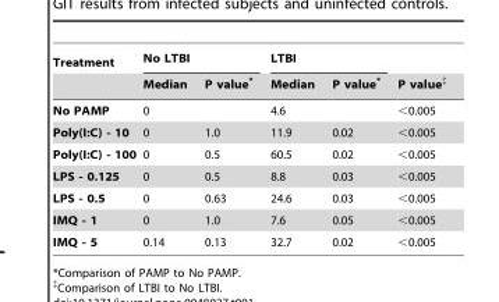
<table><thead><tr><td rowspan="2">Treatment</td><td colspan="2">No LTBI</td><td colspan="2">LTBI</td><td rowspan="2">P value‡</td></tr><tr><td>Median</td><td>P value*</td><td>Median</td><td>P value*</td></tr></thead><tbody><tr><td>No PAMP</td><td>0</td><td></td><td>4.6</td><td></td><td>&lt;0.005</td></tr><tr><td>Poly(I:C) - 10</td><td>0</td><td>1.0</td><td>11.9</td><td>0.02</td><td>&lt;0.005</td></tr><tr><td>Poly(I:C) - 100</td><td>0</td><td>0.5</td><td>60.5</td><td>0.02</td><td>&lt;0.005</td></tr><tr><td>LPS - 0.125</td><td>0</td><td>0.5</td><td>8.8</td><td>0.03</td><td>&lt;0.005</td></tr><tr><td>LPS - 0.5</td><td>0</td><td>0.63</td><td>24.6</td><td>0.03</td><td>&lt;0.005</td></tr><tr><td>IMQ - 1</td><td>0</td><td>1.0</td><td>7.6</td><td>0.05</td><td>&lt;0.005</td></tr><tr><td>IMQ - 5</td><td>0.14</td><td>0.13</td><td>32.7</td><td>0.02</td><td>&lt;0.005</td></tr></tbody></table>